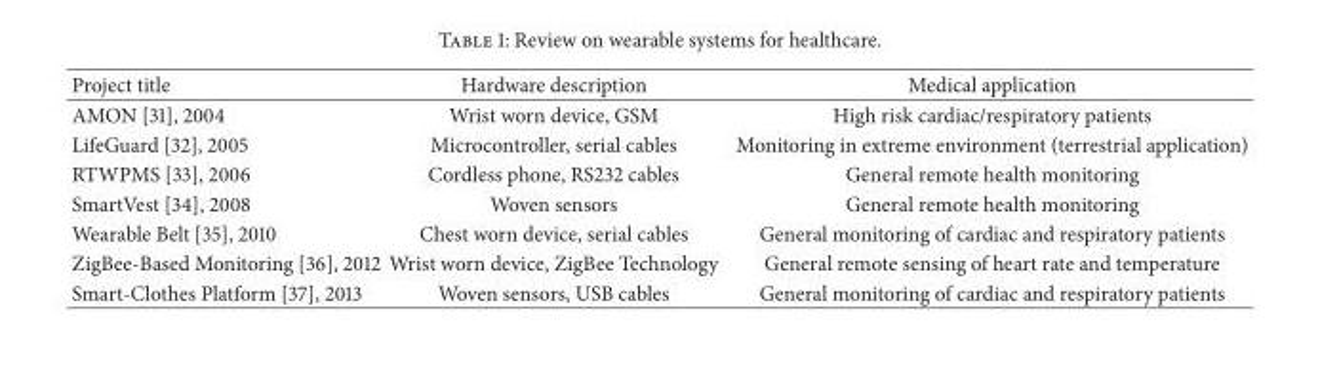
<table><thead><tr><td>Project title</td><td>Hardware description</td><td>Medical application</td></tr></thead><tbody><tr><td>AMON [31], 2004</td><td>Wrist worn device, GSM</td><td>High risk cardiac/respiratory patients</td></tr><tr><td>LifeGuard [32], 2005</td><td>Microcontroller, serial cables</td><td>Monitoring in extreme environment (terrestrial application)</td></tr><tr><td>RTWPMS [33], 2006</td><td>Cordless phone, RS232 cables</td><td>General remote health monitoring</td></tr><tr><td>SmartVest [34], 2008</td><td>Woven sensors</td><td>General remote health monitoring</td></tr><tr><td>Wearable Belt [35], 2010</td><td>Chest worn device, serial cables</td><td>General monitoring of cardiac and respiratory patients</td></tr><tr><td>ZigBee-Based Monitoring [36], 2012</td><td>Wrist worn device, ZigBee Technology</td><td>General remote sensing of heart rate and temperature</td></tr><tr><td>Smart-Clothes Platform [37], 2013</td><td>Woven sensors, USB cables</td><td>General monitoring of cardiac and respiratory patients</td></tr></tbody></table>